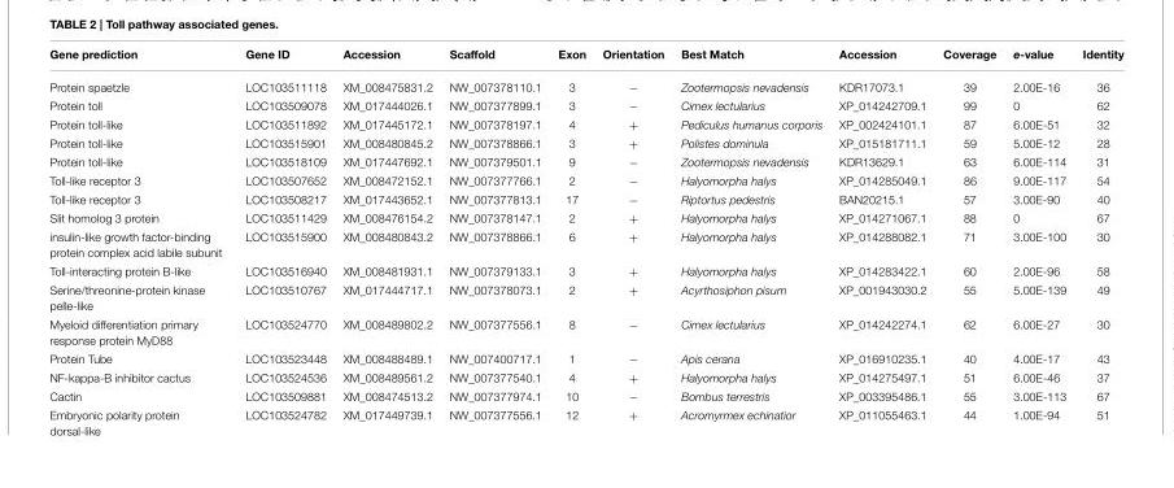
<table><thead><tr><td>Gene prediction</td><td>Gene ID</td><td>Accession</td><td>Scaffold</td><td>Exon</td><td>Orientation</td><td>Best Match</td><td>Accession</td><td>Coverage</td><td>e-value</td><td>Identity</td></tr></thead><tbody><tr><td>Protein spaetzle</td><td>LOC103511118</td><td>XM_008475831.2</td><td>NW_007378110.1</td><td>3</td><td>−</td><td>Zootermopsis nevadensis</td><td>KDR17073.1</td><td>39</td><td>2.00E-16</td><td>36</td></tr><tr><td>Protein toll</td><td>LOC103509078</td><td>XM_017444026.1</td><td>NW_007377899.1</td><td>3</td><td>−</td><td>Cimex lectularius</td><td>XP_014242709.1</td><td>99</td><td>0</td><td>62</td></tr><tr><td>Protein toll-like</td><td>LOC103511892</td><td>XM_017445172.1</td><td>NW_007378197.1</td><td>4</td><td>+</td><td>Pediculus humanus corporis</td><td>XP_002424101.1</td><td>87</td><td>6.00E-51</td><td>32</td></tr><tr><td>Protein toll-like</td><td>LOC103515901</td><td>XM_008480845.2</td><td>NW_007378866.1</td><td>3</td><td>+</td><td>Polistes dominula</td><td>XP_015181711.1</td><td>59</td><td>5.00E-12</td><td>28</td></tr><tr><td>Protein toll-like</td><td>LOC103518109</td><td>XM_017447692.1</td><td>NW_007379501.1</td><td>9</td><td>−</td><td>Zootermopsis nevadensis</td><td>KDR13629.1</td><td>63</td><td>6.00E-114</td><td>31</td></tr><tr><td>Toll-like receptor 3</td><td>LOC103507652</td><td>XM_008472152.1</td><td>NW_007377766.1</td><td>2</td><td>−</td><td>Halyomorpha halys</td><td>XP_014285049.1</td><td>86</td><td>9.00E-117</td><td>54</td></tr><tr><td>Toll-like receptor 3</td><td>LOC103508217</td><td>XM_017443652.1</td><td>NW_007377813.1</td><td>17</td><td>−</td><td>Riptortus pedestris</td><td>BAN20215.1</td><td>57</td><td>3.00E-90</td><td>40</td></tr><tr><td>Slit homolog 3 protein</td><td>LOC103511429</td><td>XM_008476154.2</td><td>NW_007378147.1</td><td>2</td><td>+</td><td>Halyomorpha halys</td><td>XP_014271067.1</td><td>88</td><td>0</td><td>67</td></tr><tr><td>insulin-like growth factor-binding protein complex acid labile subunit</td><td>LOC103515900</td><td>XM_008480843.2</td><td>NW_007378866.1</td><td>6</td><td>+</td><td>Halyomorpha halys</td><td>XP_014288082.1</td><td>71</td><td>3.00E-100</td><td>30</td></tr><tr><td>Toll-interacting protein B-like</td><td>LOC103516940</td><td>XM_008481931.1</td><td>NW_007379133.1</td><td>3</td><td>+</td><td>Halyomorpha halys</td><td>XP_014283422.1</td><td>60</td><td>2.00E-96</td><td>58</td></tr><tr><td>Serine/threonine-protein kinase pelle-like</td><td>LOC103510767</td><td>XM_017444717.1</td><td>NW_007378073.1</td><td>2</td><td>+</td><td>Acyrthosiphon pisum</td><td>XP_001943030.2</td><td>55</td><td>5.00E-139</td><td>49</td></tr><tr><td>Myeloid differentiation primary response protein MyD88</td><td>LOC103524770</td><td>XM_008489802.2</td><td>NW_007377556.1</td><td>8</td><td>−</td><td>Cimex lectularius</td><td>XP_014242274.1</td><td>62</td><td>6.00E-27</td><td>30</td></tr><tr><td>Protein Tube</td><td>LOC103523448</td><td>XM_008488489.1</td><td>NW_007400717.1</td><td>1</td><td>−</td><td>Apis cerana</td><td>XP_016910235.1</td><td>40</td><td>4.00E-17</td><td>43</td></tr><tr><td>NF-kappa-B inhibitor cactus</td><td>LOC103524536</td><td>XM_008489561.2</td><td>NW_007377540.1</td><td>4</td><td>+</td><td>Halyomorpha halys</td><td>XP_014275497.1</td><td>51</td><td>6.00E-46</td><td>37</td></tr><tr><td>Cactin</td><td>LOC103509881</td><td>XM_008474513.2</td><td>NW_007377974.1</td><td>10</td><td>−</td><td>Bombus terrestris</td><td>XP_003395486.1</td><td>55</td><td>3.00E-113</td><td>67</td></tr><tr><td>Embryonic polarity protein dorsal-like</td><td>LOC103524782</td><td>XM_017449739.1</td><td>NW_007377556.1</td><td>12</td><td>+</td><td>Acromyrmex echinatior</td><td>XP_011055463.1</td><td>44</td><td>1.00E-94</td><td>51</td></tr></tbody></table>